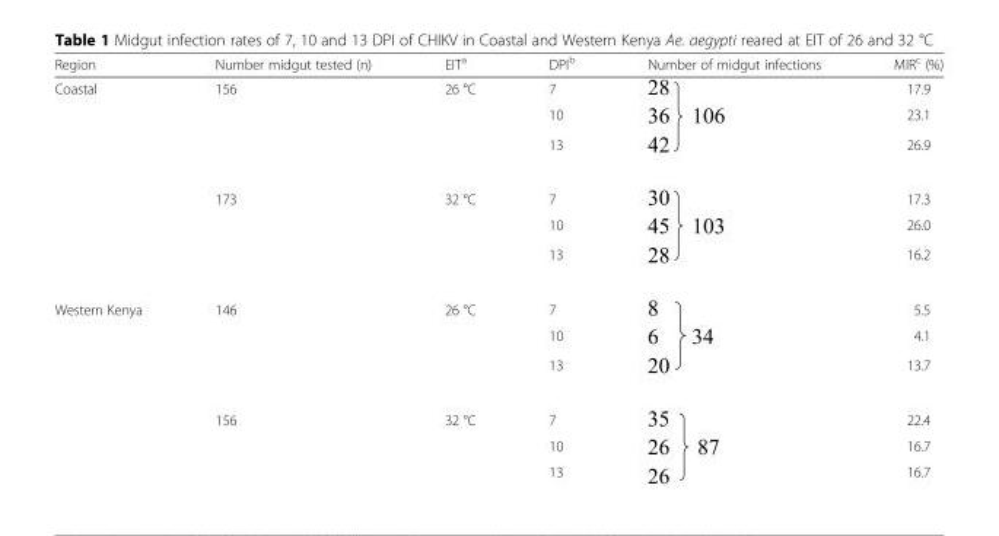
<table><thead><tr><td>Region</td><td>Number midgut tested (n)</td><td>EIT<sup>a</sup></td><td>DPI<sup>b</sup></td><td>Number of midgut infections</td><td>MIR<sup>c</sup> (%)</td></tr></thead><tbody><tr><td rowspan="6">Coastal</td><td>156</td><td>26 °C</td><td>7</td><td rowspan="3"></td><td>17.9</td></tr><tr><td></td><td></td><td>10</td><td>23.1</td></tr><tr><td></td><td></td><td>13</td><td>26.9</td></tr><tr><td>173</td><td>32 °C</td><td>7</td><td rowspan="3"></td><td>17.3</td></tr><tr><td></td><td></td><td>10</td><td>26.0</td></tr><tr><td></td><td></td><td>13</td><td>16.2</td></tr><tr><td rowspan="6">Western Kenya</td><td>146</td><td>26 °C</td><td>7</td><td rowspan="3"></td><td>5.5</td></tr><tr><td></td><td></td><td>10</td><td>4.1</td></tr><tr><td></td><td></td><td>13</td><td>13.7</td></tr><tr><td>156</td><td>32 °C</td><td>7</td><td rowspan="3"></td><td>22.4</td></tr><tr><td></td><td></td><td>10</td><td>16.7</td></tr><tr><td></td><td></td><td>13</td><td>16.7</td></tr></tbody></table>